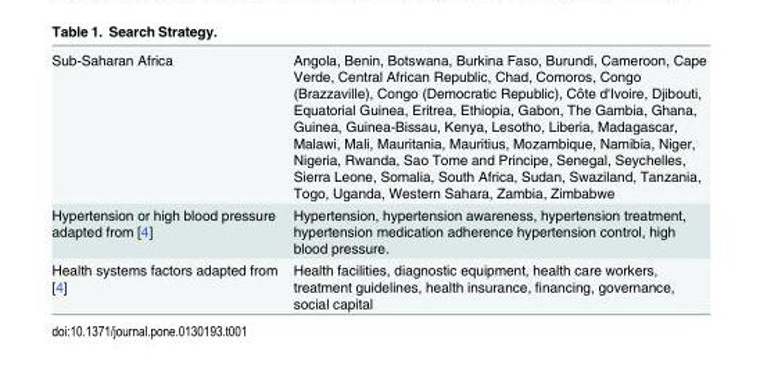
<table><tbody><tr><td>Sub-Saharan Africa</td><td>Angola, Benin, Botswana, Burkina Faso, Burundi, Cameroon, Cape Verde, Central African Republic, Chad, Comoros, Congo (Brazzaville), Congo (Democratic Republic), Côte d&#x27;Ivoire, Djibouti, Equatorial Guinea, Eritrea, Ethiopia, Gabon, The Gambia, Ghana, Guinea, Guinea-Bissau, Kenya, Lesotho, Liberia, Madagascar, Malawi, Mali, Mauritania, Mauritius, Mozambique, Namibia, Niger, Nigeria, Rwanda, Sao Tome and Principe, Senegal, Seychelles, Sierra Leone, Somalia, South Africa, Sudan, Swaziland, Tanzania, Togo, Uganda, Western Sahara, Zambia, Zimbabwe</td></tr><tr><td>Hypertension or high blood pressure adapted from [4]</td><td>Hypertension, hypertension awareness, hypertension treatment, hypertension medication adherence hypertension control, high blood pressure.</td></tr><tr><td>Health systems factors adapted from [4]</td><td>Health facilities, diagnostic equipment, health care workers, treatment guidelines, health insurance, financing, governance, social capital</td></tr></tbody></table>